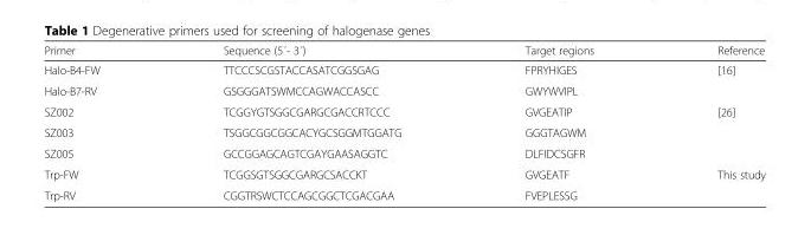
<table><thead><tr><td>Primer</td><td>Sequence (5´- 3´)</td><td>Target regions</td><td>Reference</td></tr></thead><tbody><tr><td>Halo-B4-FW</td><td>TTCCCSCGSTACCASATCGGSGAG</td><td>FPRYHIGES</td><td rowspan="2">[16]</td></tr><tr><td>Halo-B7-RV</td><td>GSGGGATSWMCCAGWACCASCC</td><td>GWYWVIPL</td></tr><tr><td>SZ002</td><td>TCGGYGTSGGCGARGCGACCRTCCC</td><td>GVGEATIP</td><td rowspan="3">[26]</td></tr><tr><td>SZ003</td><td>TSGGCGGCGGCACYGCSGGMTGGATG</td><td>GGGTAGWM</td></tr><tr><td>SZ005</td><td>GCCGGAGCAGTCGAYGAASAGGTC</td><td>DLFIDCSGFR</td></tr><tr><td>Trp-FW</td><td>TCGGSGTSGGCGARGCSACCKT</td><td>GVGEATF</td><td rowspan="2">This study</td></tr><tr><td>Trp-RV</td><td>CGGTRSWCTCCAGCGGCTCGACGAA</td><td>FVEPLESSG</td></tr></tbody></table>